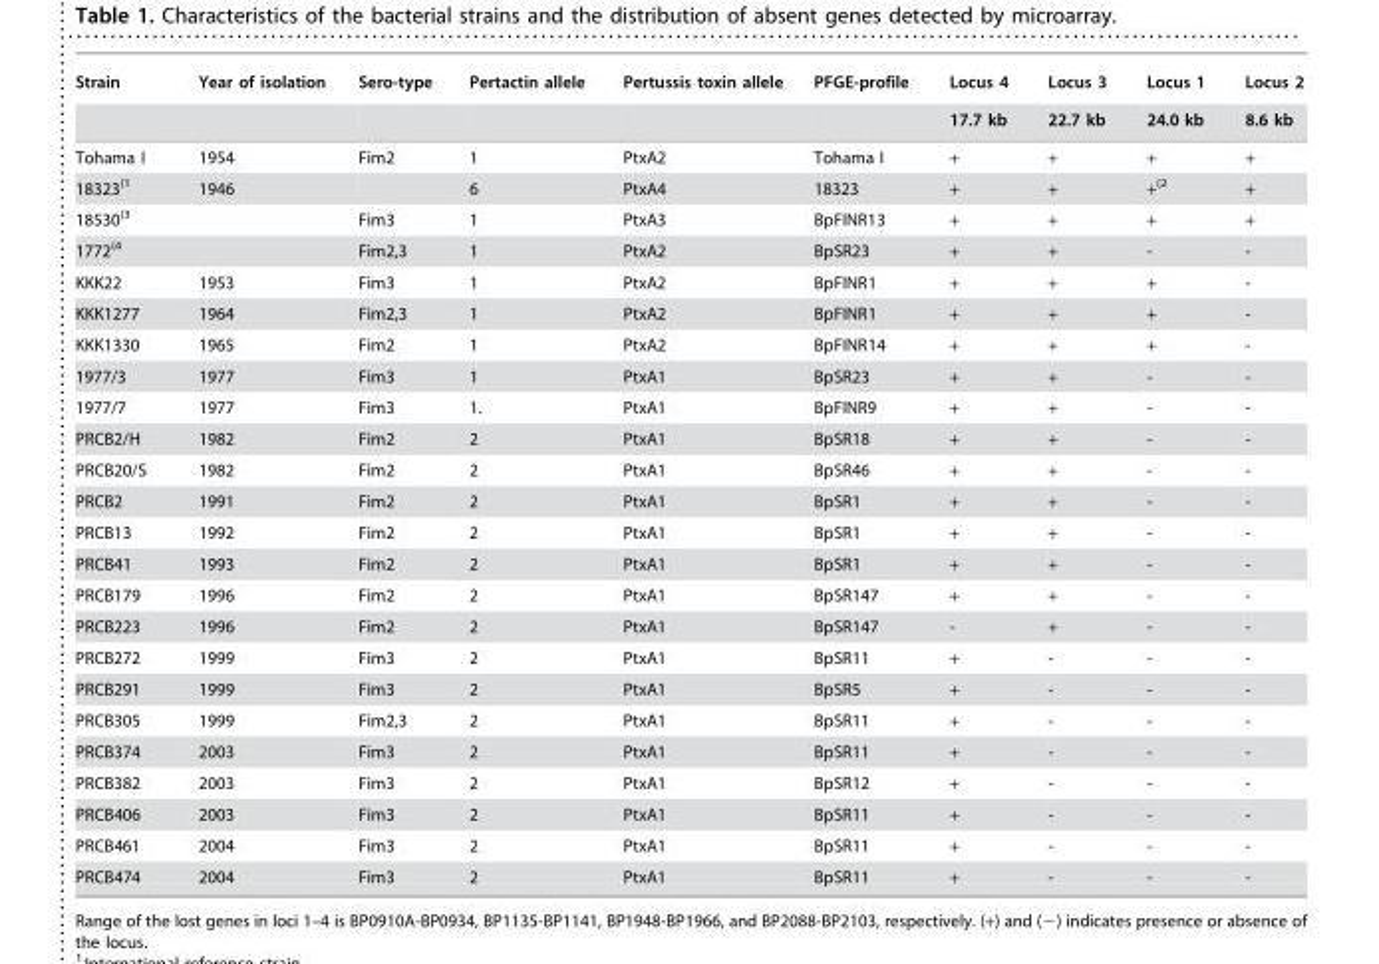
<table><thead><tr><td rowspan="2">Strain</td><td rowspan="2">Year of isolation</td><td rowspan="2">Sero-type</td><td rowspan="2">Pertactin allele</td><td rowspan="2">Pertussis toxin allele</td><td rowspan="2">PFGE-profile</td><td rowspan="2">Locus 4 17.7 kb</td><td rowspan="2">Locus 3 22.7 kb</td><td rowspan="2">Locus 1 24.0 kb</td><td rowspan="2">Locus 2 8.6 kb</td></tr><tr></tr></thead><tbody><tr><td>Tohama I</td><td>1954</td><td>Fim2</td><td>1</td><td>PtxA2</td><td>Tohama I</td><td>+</td><td>+</td><td>+</td><td>+</td></tr><tr><td>18323(1</td><td>1946</td><td></td><td>6</td><td>PtxA4</td><td>18323</td><td>+</td><td>+</td><td>+(2</td><td>+</td></tr><tr><td>18530(3</td><td></td><td>Fim3</td><td>1</td><td>PtxA3</td><td>BpFINR13</td><td>+</td><td>+</td><td>+</td><td>+</td></tr><tr><td>1772(4</td><td></td><td>Fim2,3</td><td>1</td><td>PtxA2</td><td>BpSR23</td><td>+</td><td>+</td><td>-</td><td>-</td></tr><tr><td>KKK22</td><td>1953</td><td>Fim3</td><td>1</td><td>PtxA2</td><td>BpFINR1</td><td>+</td><td>+</td><td>+</td><td>-</td></tr><tr><td>KKK1277</td><td>1964</td><td>Fim2,3</td><td>1</td><td>PtxA2</td><td>BpFINR1</td><td>+</td><td>+</td><td>+</td><td>-</td></tr><tr><td>KKK1330</td><td>1965</td><td>Fim2</td><td>1</td><td>PtxA2</td><td>BpFINR14</td><td>+</td><td>+</td><td>+</td><td>-</td></tr><tr><td>1977/3</td><td>1977</td><td>Fim3</td><td>1</td><td>PtxA1</td><td>BpSR23</td><td>+</td><td>+</td><td>-</td><td>-</td></tr><tr><td>1977/7</td><td>1977</td><td>Fim3</td><td>1.</td><td>PtxA1</td><td>BpFINR9</td><td>+</td><td>+</td><td>-</td><td>-</td></tr><tr><td>PRCB2/H</td><td>1982</td><td>Fim2</td><td>2</td><td>PtxA1</td><td>BpSR18</td><td>+</td><td>+</td><td>-</td><td>-</td></tr><tr><td>PRCB20/S</td><td>1982</td><td>Fim2</td><td>2</td><td>PtxA1</td><td>BpSR46</td><td>+</td><td>+</td><td>-</td><td>-</td></tr><tr><td>PRCB2</td><td>1991</td><td>Fim2</td><td>2</td><td>PtxA1</td><td>BpSR1</td><td>+</td><td>+</td><td>-</td><td>-</td></tr><tr><td>PRCB13</td><td>1992</td><td>Fim2</td><td>2</td><td>PtxA1</td><td>BpSR1</td><td>+</td><td>+</td><td>-</td><td>-</td></tr><tr><td>PRCB41</td><td>1993</td><td>Fim2</td><td>2</td><td>PtxA1</td><td>BpSR1</td><td>+</td><td>+</td><td>-</td><td>-</td></tr><tr><td>PRCB179</td><td>1996</td><td>Fim2</td><td>2</td><td>PtxA1</td><td>BpSR147</td><td>+</td><td>+</td><td>-</td><td>-</td></tr><tr><td>PRCB223</td><td>1996</td><td>Fim2</td><td>2</td><td>PtxA1</td><td>BpSR147</td><td>-</td><td>+</td><td>-</td><td>-</td></tr><tr><td>PRCB272</td><td>1999</td><td>Fim3</td><td>2</td><td>PtxA1</td><td>BpSR11</td><td>+</td><td>-</td><td>-</td><td>-</td></tr><tr><td>PRCB291</td><td>1999</td><td>Fim3</td><td>2</td><td>PtxA1</td><td>BpSR5</td><td>+</td><td>-</td><td>-</td><td>-</td></tr><tr><td>PRCB305</td><td>1999</td><td>Fim2,3</td><td>2</td><td>PtxA1</td><td>BpSR11</td><td>+</td><td>-</td><td>-</td><td>-</td></tr><tr><td>PRCB374</td><td>2003</td><td>Fim3</td><td>2</td><td>PtxA1</td><td>BpSR11</td><td>+</td><td>-</td><td>-</td><td>-</td></tr><tr><td>PRCB382</td><td>2003</td><td>Fim3</td><td>2</td><td>PtxA1</td><td>BpSR12</td><td>+</td><td>-</td><td>-</td><td>-</td></tr><tr><td>PRCB406</td><td>2003</td><td>Fim3</td><td>2</td><td>PtxA1</td><td>BpSR11</td><td>+</td><td>-</td><td>-</td><td>-</td></tr><tr><td>PRCB461</td><td>2004</td><td>Fim3</td><td>2</td><td>PtxA1</td><td>BpSR11</td><td>+</td><td>-</td><td>-</td><td>-</td></tr><tr><td>PRCB474</td><td>2004</td><td>Fim3</td><td>2</td><td>PtxA1</td><td>BpSR11</td><td>+</td><td>-</td><td>-</td><td>-</td></tr></tbody></table>